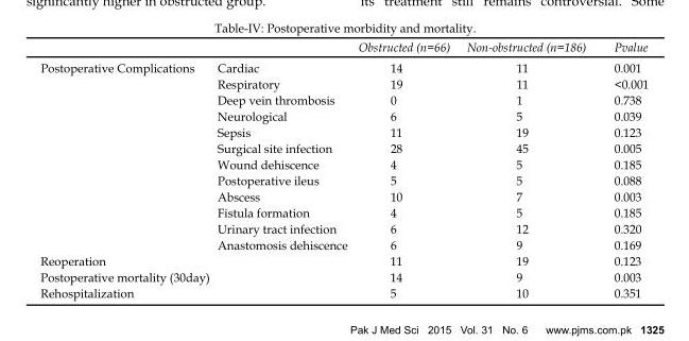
<table><thead><tr><td></td><td></td><td>Obstructed (n=66)</td><td>Non-obstructed (n=186)</td><td>Pvalue</td></tr></thead><tbody><tr><td rowspan="12">Postoperative Complications</td><td>Cardiac</td><td>14</td><td>11</td><td>0.001</td></tr><tr><td>Respiratory</td><td>19</td><td>11</td><td>&lt;0.001</td></tr><tr><td>Deep vein thrombosis</td><td>0</td><td>1</td><td>0.738</td></tr><tr><td>Neurological</td><td>6</td><td>5</td><td>0.039</td></tr><tr><td>Sepsis</td><td>11</td><td>19</td><td>0.123</td></tr><tr><td>Surgical site infection</td><td>28</td><td>45</td><td>0.005</td></tr><tr><td>Wound dehiscence</td><td>4</td><td>5</td><td>0.185</td></tr><tr><td>Postoperative ileus</td><td>5</td><td>5</td><td>0.088</td></tr><tr><td>Abscess</td><td>10</td><td>7</td><td>0.003</td></tr><tr><td>Fistula formation</td><td>4</td><td>5</td><td>0.185</td></tr><tr><td>Urinary tract infection</td><td>6</td><td>12</td><td>0.320</td></tr><tr><td>Anastomosis dehiscence</td><td>6</td><td>9</td><td>0.169</td></tr><tr><td>Reoperation</td><td></td><td>11</td><td>19</td><td>0.123</td></tr><tr><td>Postoperative mortality (30day)</td><td></td><td>14</td><td>9</td><td>0.003</td></tr><tr><td>Rehospitalization</td><td></td><td>5</td><td>10</td><td>0.351</td></tr></tbody></table>